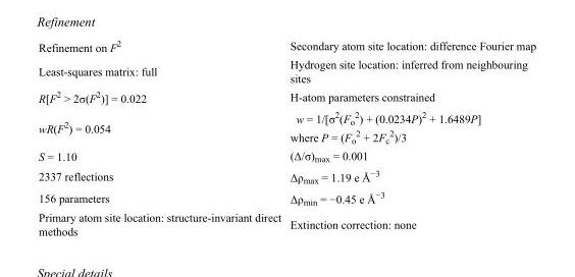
<table><tbody><tr><td>Refinement on F<sup>2</sup></td><td>Secondary atom site location: difference Fourier map</td></tr><tr><td>Least-squares matrix: full</td><td>Hydrogen site location: inferred from neighbouring sites</td></tr><tr><td>R[F<sup>2</sup> &gt; 2σ(F<sup>2</sup>)] = 0.022</td><td>H-atom parameters constrained</td></tr><tr><td>wR(F<sup>2</sup>) = 0.054</td><td>w = 1/[σ<sup>2</sup>(F<sub>o</sub> <sup>2</sup>) + (0.0234P)<sup>2</sup> + 1.6489P] where P = (F<sub>o</sub> <sup>2</sup> + 2F<sub>c</sub> <sup>2</sup>)/3</td></tr><tr><td>S = 1.10</td><td>(Δ/σ)<sub>max</sub> = 0.001</td></tr><tr><td>2337 reflections</td><td>Δρ<sub>max</sub> = 1.19 e Å<sup>−3</sup></td></tr><tr><td>156 parameters</td><td>Δρ<sub>min</sub> = −0.45 e Å<sup>−3</sup></td></tr><tr><td>Primary atom site location: structure-invariant direct methods</td><td>Extinction correction: none</td></tr></tbody></table>